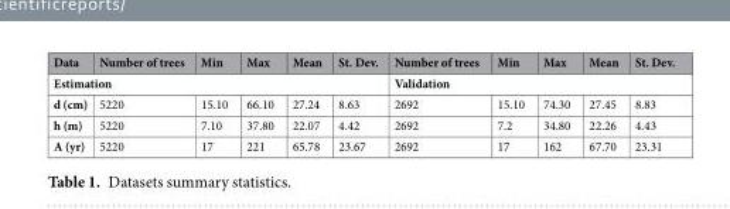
<table><thead><tr><td>Data</td><td>Number of trees</td><td>Min</td><td>Max</td><td>Mean</td><td>St. Dev.</td><td>Number of trees</td><td>Min</td><td>Max</td><td>Mean</td><td>St. Dev.</td></tr></thead><tbody><tr><td colspan="6">Estimation</td><td colspan="5">Validation</td></tr><tr><td>d (cm)</td><td>5220</td><td>15.10</td><td>66.10</td><td>27.24</td><td>8.63</td><td>2692</td><td>15.10</td><td>74.30</td><td>27.45</td><td>8.83</td></tr><tr><td>h (m)</td><td>5220</td><td>7.10</td><td>37.80</td><td>22.07</td><td>4.42</td><td>2692</td><td>7.2</td><td>34.80</td><td>22.26</td><td>4.43</td></tr><tr><td>A (yr)</td><td>5220</td><td>17</td><td>221</td><td>65.78</td><td>23.67</td><td>2692</td><td>17</td><td>162</td><td>67.70</td><td>23.31</td></tr></tbody></table>